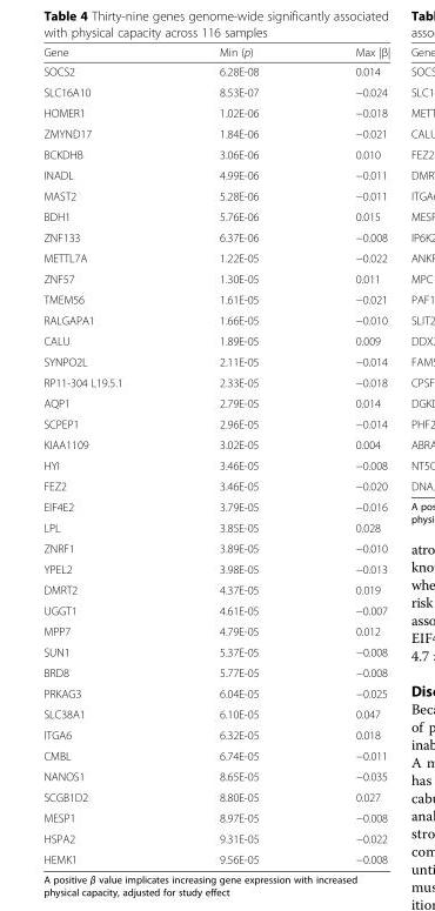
<table><thead><tr><td>Gene</td><td>Min (p)</td><td>Max |β|</td></tr></thead><tbody><tr><td>SOCS2</td><td>6.28E-08</td><td>0.014</td></tr><tr><td>SLC16A10</td><td>8.53E-07</td><td>−0.024</td></tr><tr><td>HOMER1</td><td>1.02E-06</td><td>−0.018</td></tr><tr><td>ZMYND17</td><td>1.84E-06</td><td>−0.021</td></tr><tr><td>BCKDHB</td><td>3.06E-06</td><td>0.010</td></tr><tr><td>INADL</td><td>4.99E-06</td><td>−0.011</td></tr><tr><td>MAST2</td><td>5.28E-06</td><td>−0.011</td></tr><tr><td>BDH1</td><td>5.76E-06</td><td>0.015</td></tr><tr><td>ZNF133</td><td>6.37E-06</td><td>−0.008</td></tr><tr><td>METTL7A</td><td>1.22E-05</td><td>−0.022</td></tr><tr><td>ZNF57</td><td>1.30E-05</td><td>0.011</td></tr><tr><td>TMEM56</td><td>1.61E-05</td><td>−0.021</td></tr><tr><td>RALGAPA1</td><td>1.66E-05</td><td>−0.010</td></tr><tr><td>CALU</td><td>1.89E-05</td><td>0.009</td></tr><tr><td>SYNPO2L</td><td>2.11E-05</td><td>−0.014</td></tr><tr><td>RP11-304 L19.5.1</td><td>2.33E-05</td><td>−0.018</td></tr><tr><td>AQP1</td><td>2.79E-05</td><td>0.014</td></tr><tr><td>SCPEP1</td><td>2.96E-05</td><td>−0.014</td></tr><tr><td>KIAA1109</td><td>3.02E-05</td><td>0.004</td></tr><tr><td>HYI</td><td>3.46E-05</td><td>−0.008</td></tr><tr><td>FEZ2</td><td>3.46E-05</td><td>−0.020</td></tr><tr><td>EIF4E2</td><td>3.79E-05</td><td>−0.016</td></tr><tr><td>LPL</td><td>3.85E-05</td><td>0.028</td></tr><tr><td>ZNRF1</td><td>3.89E-05</td><td>−0.010</td></tr><tr><td>YPEL2</td><td>3.98E-05</td><td>−0.013</td></tr><tr><td>DMRT2</td><td>4.37E-05</td><td>0.019</td></tr><tr><td>UGGT1</td><td>4.61E-05</td><td>−0.007</td></tr><tr><td>MPP7</td><td>4.79E-05</td><td>0.012</td></tr><tr><td>SUN1</td><td>5.37E-05</td><td>−0.008</td></tr><tr><td>BRD8</td><td>5.77E-05</td><td>−0.008</td></tr><tr><td>PRKAG3</td><td>6.04E-05</td><td>−0.025</td></tr><tr><td>SLC38A1</td><td>6.10E-05</td><td>0.047</td></tr><tr><td>ITGA6</td><td>6.32E-05</td><td>0.018</td></tr><tr><td>CMBL</td><td>6.74E-05</td><td>−0.011</td></tr><tr><td>NANOS1</td><td>8.65E-05</td><td>−0.035</td></tr><tr><td>SCGB1D2</td><td>8.80E-05</td><td>0.027</td></tr><tr><td>MESP1</td><td>8.97E-05</td><td>−0.008</td></tr><tr><td>HSPA2</td><td>9.31E-05</td><td>−0.022</td></tr><tr><td>HEMK1</td><td>9.56E-05</td><td>−0.008</td></tr></tbody></table>